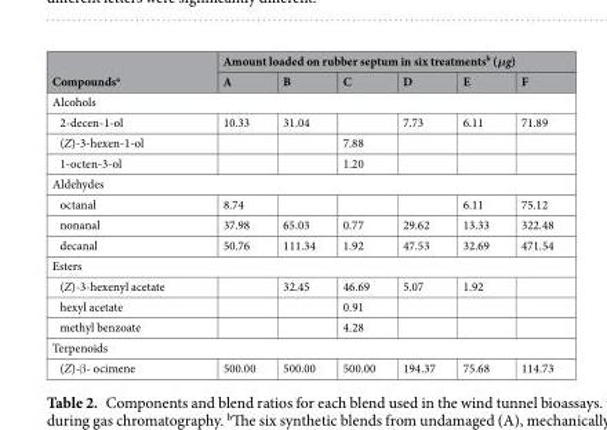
<table><thead><tr><td rowspan="2">Compounds<sup>a</sup></td><td colspan="6">Amount loaded on rubber septum in six treatments<sup>b</sup> (μg)</td></tr><tr><td>A</td><td>B</td><td>C</td><td>D</td><td>E</td><td>F</td></tr></thead><tbody><tr><td colspan="7">Alcohols</td></tr><tr><td>2-decen-1-ol</td><td>10.33</td><td>31.04</td><td></td><td>7.73</td><td>6.11</td><td>71.89</td></tr><tr><td>(Z)-3-hexen-1-ol</td><td></td><td></td><td>7.88</td><td></td><td></td><td></td></tr><tr><td>1-octen-3-ol</td><td></td><td></td><td>1.20</td><td></td><td></td><td></td></tr><tr><td colspan="7">Aldehydes</td></tr><tr><td>octanal</td><td>8.74</td><td></td><td></td><td></td><td>6.11</td><td>75.12</td></tr><tr><td>nonanal</td><td>37.98</td><td>65.03</td><td>0.77</td><td>29.62</td><td>13.33</td><td>322.48</td></tr><tr><td>decanal</td><td>50.76</td><td>111.34</td><td>1.92</td><td>47.53</td><td>32.69</td><td>471.54</td></tr><tr><td colspan="7">Esters</td></tr><tr><td>(Z)-3-hexenyl acetate</td><td></td><td>32.45</td><td>46.69</td><td>5.07</td><td>1.92</td><td></td></tr><tr><td>hexyl acetate</td><td></td><td></td><td>0.91</td><td></td><td></td><td></td></tr><tr><td>methyl benzoate</td><td></td><td></td><td>4.28</td><td></td><td></td><td></td></tr><tr><td colspan="7">Terpenoids</td></tr><tr><td>(Z)-β- ocimene</td><td>500.00</td><td>500.00</td><td>500.00</td><td>194.37</td><td>75.68</td><td>114.73</td></tr></tbody></table>